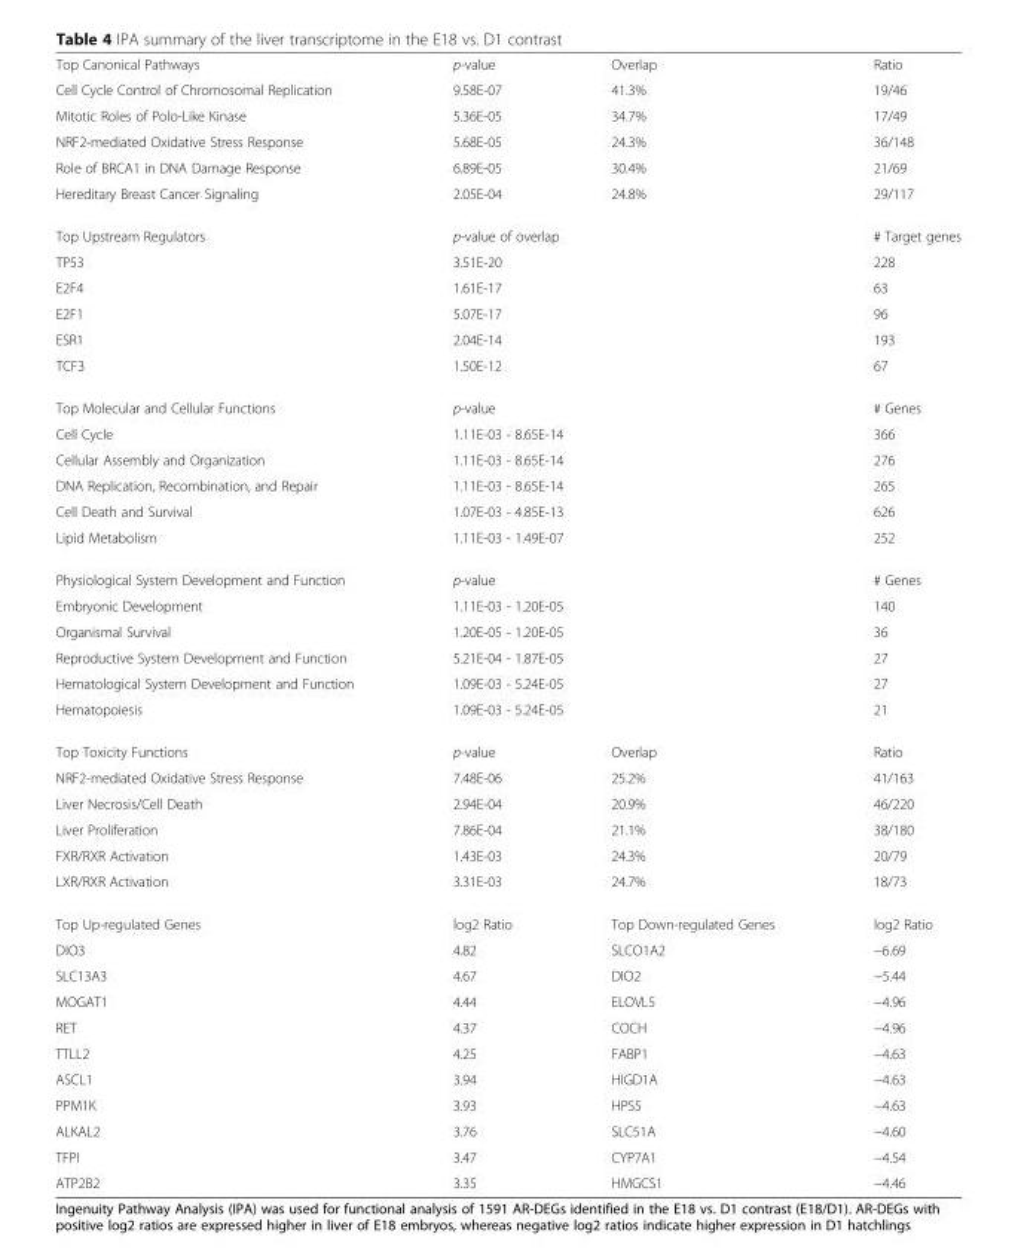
<table><tbody><tr><td>Top Canonical Pathways</td><td>p-value</td><td>Overlap</td><td>Ratio</td></tr><tr><td>Cell Cycle Control of Chromosomal Replication</td><td>9.58E-07</td><td>41.3%</td><td>19/46</td></tr><tr><td>Mitotic Roles of Polo-Like Kinase</td><td>5.36E-05</td><td>34.7%</td><td>17/49</td></tr><tr><td>NRF2-mediated Oxidative Stress Response</td><td>5.68E-05</td><td>24.3%</td><td>36/148</td></tr><tr><td>Role of BRCA1 in DNA Damage Response</td><td>6.89E-05</td><td>30.4%</td><td>21/69</td></tr><tr><td>Hereditary Breast Cancer Signaling</td><td>2.05E-04</td><td>24.8%</td><td>29/117</td></tr><tr><td>Top Upstream Regulators</td><td colspan="2">p-value of overlap</td><td># Target genes</td></tr><tr><td>TP53</td><td colspan="2">3.51E-20</td><td>228</td></tr><tr><td>E2F4</td><td colspan="2">1.61E-17</td><td>63</td></tr><tr><td>E2F1</td><td colspan="2">5.07E-17</td><td>96</td></tr><tr><td>ESR1</td><td colspan="2">2.04E-14</td><td>193</td></tr><tr><td>TCF3</td><td colspan="2">1.50E-12</td><td>67</td></tr><tr><td>Top Molecular and Cellular Functions</td><td colspan="2">p-value</td><td># Genes</td></tr><tr><td>Cell Cycle</td><td colspan="2">1.11E-03 - 8.65E-14</td><td>366</td></tr><tr><td>Cellular Assembly and Organization</td><td colspan="2">1.11E-03 - 8.65E-14</td><td>276</td></tr><tr><td>DNA Replication, Recombination, and Repair</td><td colspan="2">1.11E-03 - 8.65E-14</td><td>265</td></tr><tr><td>Cell Death and Survival</td><td colspan="2">1.07E-03 - 4.85E-13</td><td>626</td></tr><tr><td>Lipid Metabolism</td><td colspan="2">1.11E-03 - 1.49E-07</td><td>252</td></tr><tr><td>Physiological System Development and Function</td><td colspan="2">p-value</td><td># Genes</td></tr><tr><td>Embryonic Development</td><td colspan="2">1.11E-03 - 1.20E-05</td><td>140</td></tr><tr><td>Organismal Survival</td><td colspan="2">1.20E-05 - 1.20E-05</td><td>36</td></tr><tr><td>Reproductive System Development and Function</td><td colspan="2">5.21E-04 - 1.87E-05</td><td>27</td></tr><tr><td>Hematological System Development and Function</td><td colspan="2">1.09E-03 - 5.24E-05</td><td>27</td></tr><tr><td>Hematopoiesis</td><td colspan="2">1.09E-03 - 5.24E-05</td><td>21</td></tr><tr><td>Top Toxicity Functions</td><td>p-value</td><td>Overlap</td><td>Ratio</td></tr><tr><td>NRF2-mediated Oxidative Stress Response</td><td>7.48E-06</td><td>25.2%</td><td>41/163</td></tr><tr><td>Liver Necrosis/Cell Death</td><td>2.94E-04</td><td>20.9%</td><td>46/220</td></tr><tr><td>Liver Proliferation</td><td>7.86E-04</td><td>21.1%</td><td>38/180</td></tr><tr><td>FXR/RXR Activation</td><td>1.43E-03</td><td>24.3%</td><td>20/79</td></tr><tr><td>LXR/RXR Activation</td><td>3.31E-03</td><td>24.7%</td><td>18/73</td></tr><tr><td>Top Up-regulated Genes</td><td>log2 Ratio</td><td>Top Down-regulated Genes</td><td>log2 Ratio</td></tr><tr><td>DIO3</td><td>4.82</td><td>SLCO1A2</td><td>−6.69</td></tr><tr><td>SLC13A3</td><td>4.67</td><td>DIO2</td><td>−5.44</td></tr><tr><td>MOGAT1</td><td>4.44</td><td>ELOVL5</td><td>−4.96</td></tr><tr><td>RET</td><td>4.37</td><td>COCH</td><td>−4.96</td></tr><tr><td>TTLL2</td><td>4.25</td><td>FABP1</td><td>−4.63</td></tr><tr><td>ASCL1</td><td>3.94</td><td>HIGD1A</td><td>−4.63</td></tr><tr><td>PPM1K</td><td>3.93</td><td>HPS5</td><td>−4.63</td></tr><tr><td>ALKAL2</td><td>3.76</td><td>SLC51A</td><td>−4.60</td></tr><tr><td>TFPI</td><td>3.47</td><td>CYP7A1</td><td>−4.54</td></tr><tr><td>ATP2B2</td><td>3.35</td><td>HMGCS1</td><td>−4.46</td></tr></tbody></table>